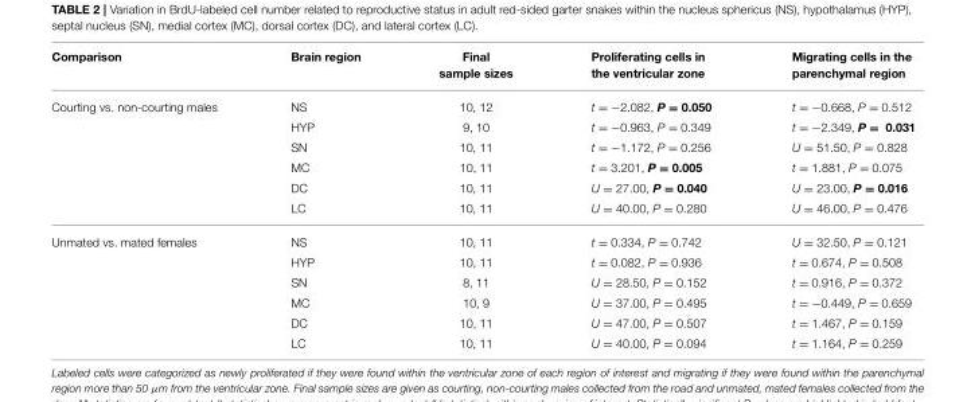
<table><thead><tr><td>Comparison</td><td>Brain region</td><td>Final sample sizes</td><td>Proliferating cells in the ventricular zone</td><td>Migrating cells in the parenchymal region</td></tr></thead><tbody><tr><td rowspan="6">Courting vs. non-courting males</td><td>NS</td><td>10, 12</td><td>t = −2.082, P = 0.050</td><td>t = −0.668, P = 0.512</td></tr><tr><td>HYP</td><td>9, 10</td><td>t = −0.963, P = 0.349</td><td>t = −2.349, P = 0.031</td></tr><tr><td>SN</td><td>10, 11</td><td>t = −1.172, P = 0.256</td><td>U = 51.50, P = 0.828</td></tr><tr><td>MC</td><td>10, 11</td><td>t = 3.201, P = 0.005</td><td>t = 1.881, P = 0.075</td></tr><tr><td>DC</td><td>10, 11</td><td>U = 27.00, P = 0.040</td><td>U = 23.00, P = 0.016</td></tr><tr><td>LC</td><td>10, 11</td><td>U = 40.00, P = 0.280</td><td>U = 46.00, P = 0.476</td></tr><tr><td rowspan="6">Unmated vs. mated females</td><td>NS</td><td>10, 11</td><td>t = 0.334, P = 0.742</td><td>U = 32.50, P = 0.121</td></tr><tr><td>HYP</td><td>10, 11</td><td>t = 0.082, P = 0.936</td><td>t = 0.674, P = 0.508</td></tr><tr><td>SN</td><td>8, 11</td><td>U = 28.50, P = 0.152</td><td>t = 0.916, P = 0.372</td></tr><tr><td>MC</td><td>10, 9</td><td>U = 37.00, P = 0.495</td><td>t = −0.449, P = 0.659</td></tr><tr><td>DC</td><td>10, 11</td><td>U = 47.00, P = 0.507</td><td>t = 1.467, P = 0.159</td></tr><tr><td>LC</td><td>10, 11</td><td>U = 40.00, P = 0.094</td><td>t = 1.164, P = 0.259</td></tr></tbody></table>